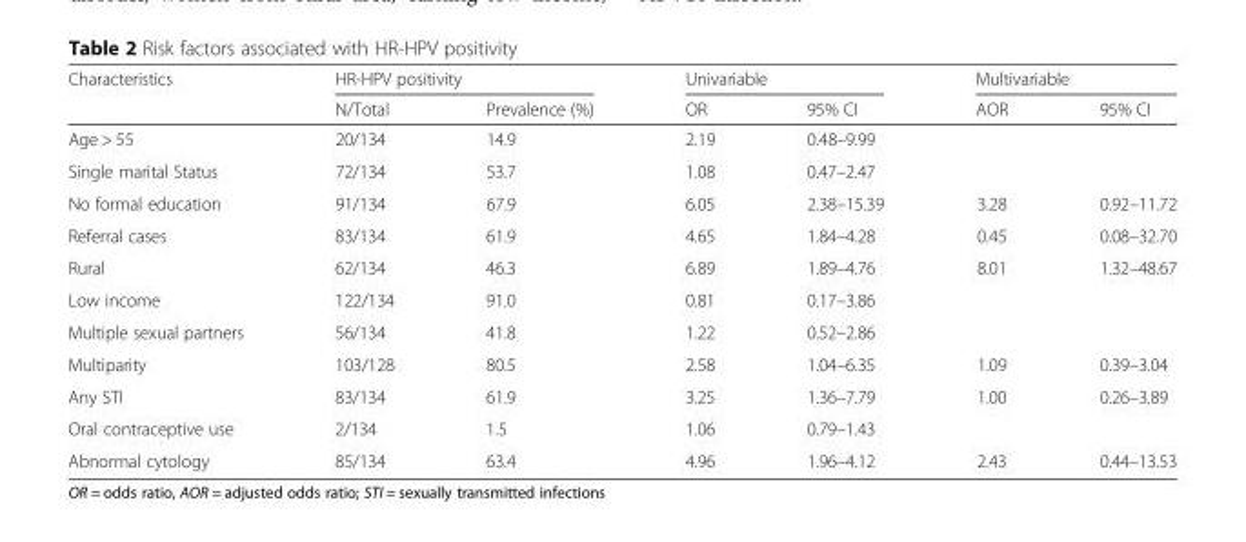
<table><thead><tr><td rowspan="2">Characteristics</td><td colspan="2">HR-HPV positivity</td><td colspan="2">Univariable</td><td colspan="2">Multivariable</td></tr><tr><td>N/Total</td><td>Prevalence (%)</td><td>OR</td><td>95% CI</td><td>AOR</td><td>95% CI</td></tr></thead><tbody><tr><td>Age &gt; 55</td><td>20/134</td><td>14.9</td><td>2.19</td><td>0.48–9.99</td><td></td><td></td></tr><tr><td>Single marital Status</td><td>72/134</td><td>53.7</td><td>1.08</td><td>0.47–2.47</td><td></td><td></td></tr><tr><td>No formal education</td><td>91/134</td><td>67.9</td><td>6.05</td><td>2.38–15.39</td><td>3.28</td><td>0.92–11.72</td></tr><tr><td>Referral cases</td><td>83/134</td><td>61.9</td><td>4.65</td><td>1.84–4.28</td><td>0.45</td><td>0.08–32.70</td></tr><tr><td>Rural</td><td>62/134</td><td>46.3</td><td>6.89</td><td>1.89–4.76</td><td>8.01</td><td>1.32–48.67</td></tr><tr><td>Low income</td><td>122/134</td><td>91.0</td><td>0.81</td><td>0.17–3.86</td><td></td><td></td></tr><tr><td>Multiple sexual partners</td><td>56/134</td><td>41.8</td><td>1.22</td><td>0.52–2.86</td><td></td><td></td></tr><tr><td>Multiparity</td><td>103/128</td><td>80.5</td><td>2.58</td><td>1.04–6.35</td><td>1.09</td><td>0.39–3.04</td></tr><tr><td>Any STI</td><td>83/134</td><td>61.9</td><td>3.25</td><td>1.36–7.79</td><td>1.00</td><td>0.26–3.89</td></tr><tr><td>Oral contraceptive use</td><td>2/134</td><td>1.5</td><td>1.06</td><td>0.79–1.43</td><td></td><td></td></tr><tr><td>Abnormal cytology</td><td>85/134</td><td>63.4</td><td>4.96</td><td>1.96–4.12</td><td>2.43</td><td>0.44–13.53</td></tr></tbody></table>